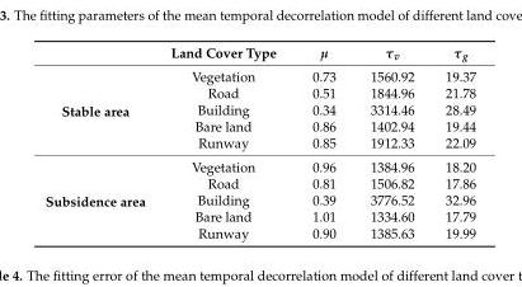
<table><thead><tr><td></td><td>Land Cover Type</td><td>µ</td><td>τ<sub>v</sub></td><td>τ<sub>g</sub></td></tr></thead><tbody><tr><td rowspan="5">Stable area</td><td>Vegetation</td><td>0.73</td><td>1560.92</td><td>19.37</td></tr><tr><td>Road</td><td>0.51</td><td>1844.96</td><td>21.78</td></tr><tr><td>Building</td><td>0.34</td><td>3314.46</td><td>28.49</td></tr><tr><td>Bare land</td><td>0.86</td><td>1402.94</td><td>19.44</td></tr><tr><td>Runway</td><td>0.85</td><td>1912.33</td><td>22.09</td></tr><tr><td rowspan="5">Subsidence area</td><td>Vegetation</td><td>0.96</td><td>1384.96</td><td>18.20</td></tr><tr><td>Road</td><td>0.81</td><td>1506.82</td><td>17.86</td></tr><tr><td>Building</td><td>0.39</td><td>3776.52</td><td>32.96</td></tr><tr><td>Bare land</td><td>1.01</td><td>1334.60</td><td>17.79</td></tr><tr><td>Runway</td><td>0.90</td><td>1385.63</td><td>19.99</td></tr></tbody></table>